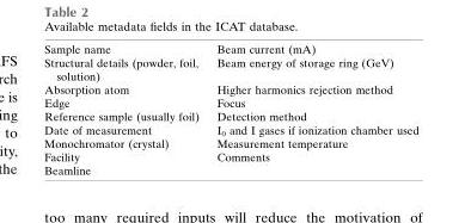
<table><tbody><tr><td>Sample name</td><td>Beam current (mA)</td></tr><tr><td>Structural details (powder, foil, solution)</td><td>Beam energy of storage ring (GeV)</td></tr><tr><td>Absorption atom</td><td>Higher harmonics rejection method</td></tr><tr><td>Edge</td><td>Focus</td></tr><tr><td>Reference sample (usually foil)</td><td>Detection method</td></tr><tr><td>Date of measurement</td><td>I<sub>0</sub> and I gases if ionization chamber used</td></tr><tr><td>Monochromator (crystal)</td><td>Measurement temperature</td></tr><tr><td>Facility</td><td>Comments</td></tr><tr><td>Beamline</td><td></td></tr></tbody></table>